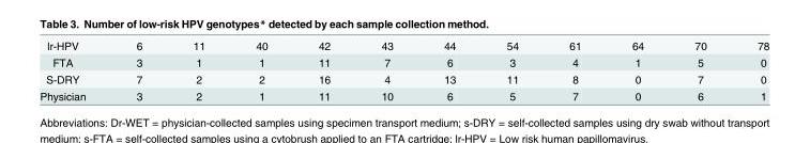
<table><tbody><tr><td>lr-HPV</td><td>6</td><td>11</td><td>40</td><td>42</td><td>43</td><td>44</td><td>54</td><td>61</td><td>64</td><td>70</td><td>78</td></tr><tr><td>FTA</td><td>3</td><td>1</td><td>1</td><td>11</td><td>7</td><td>6</td><td>3</td><td>4</td><td>1</td><td>5</td><td>0</td></tr><tr><td>S-DRY</td><td>7</td><td>2</td><td>2</td><td>16</td><td>4</td><td>13</td><td>11</td><td>8</td><td>0</td><td>7</td><td>0</td></tr><tr><td>Physician</td><td>3</td><td>2</td><td>1</td><td>11</td><td>10</td><td>6</td><td>5</td><td>7</td><td>0</td><td>6</td><td>1</td></tr></tbody></table>